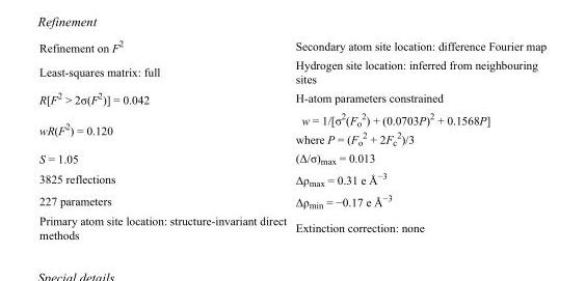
<table><tbody><tr><td>Refinement on F<sup>2</sup></td><td>Secondary atom site location: difference Fourier map</td></tr><tr><td>Least-squares matrix: full</td><td>Hydrogen site location: inferred from neighbouring sites</td></tr><tr><td>R[F<sup>2</sup> &gt; 2σ(F<sup>2</sup>)] = 0.042</td><td>H-atom parameters constrained</td></tr><tr><td>wR(F<sup>2</sup>) = 0.120</td><td>w = 1/[σ<sup>2</sup>(F<sub>o</sub> <sup>2</sup>) + (0.0703P)<sup>2</sup> + 0.1568P] where P = (F<sub>o</sub> <sup>2</sup> + 2F<sub>c</sub> <sup>2</sup>)/3</td></tr><tr><td>S = 1.05</td><td>(Δ/σ)<sub>max</sub> = 0.013</td></tr><tr><td>3825 reflections</td><td>Δρ<sub>max</sub> = 0.31 e Å<sup>−3</sup></td></tr><tr><td>227 parameters</td><td>Δρ<sub>min</sub> = −0.17 e Å<sup>−3</sup></td></tr><tr><td>Primary atom site location: structure-invariant direct methods</td><td>Extinction correction: none</td></tr></tbody></table>